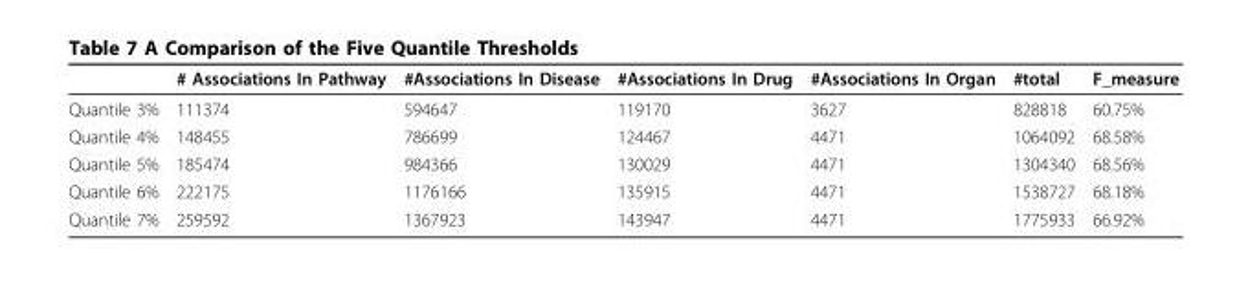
<table><thead><tr><td></td><td># Associations In Pathway</td><td>#Associations In Disease</td><td>#Associations In Drug</td><td>#Associations In Organ</td><td>#total</td><td>F_measure</td></tr></thead><tbody><tr><td>Quantile 3%</td><td>111374</td><td>594647</td><td>119170</td><td>3627</td><td>828818</td><td>60.75%</td></tr><tr><td>Quantile 4%</td><td>148455</td><td>786699</td><td>124467</td><td>4471</td><td>1064092</td><td>68.58%</td></tr><tr><td>Quantile 5%</td><td>185474</td><td>984366</td><td>130029</td><td>4471</td><td>1304340</td><td>68.56%</td></tr><tr><td>Quantile 6%</td><td>222175</td><td>1176166</td><td>135915</td><td>4471</td><td>1538727</td><td>68.18%</td></tr><tr><td>Quantile 7%</td><td>259592</td><td>1367923</td><td>143947</td><td>4471</td><td>1775933</td><td>66.92%</td></tr></tbody></table>